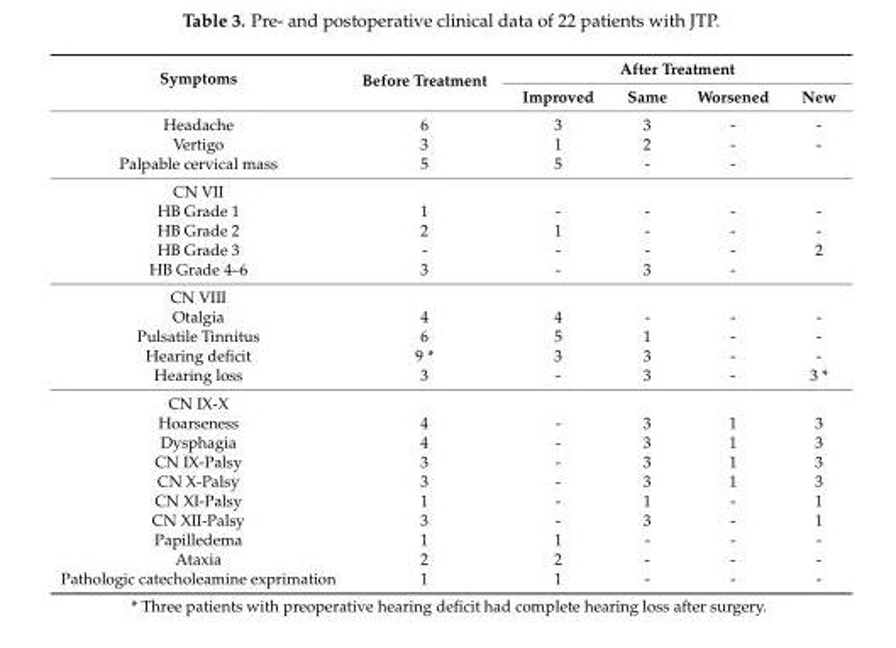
<table><thead><tr><td rowspan="2">Symptoms</td><td rowspan="2">Before Treatment</td><td colspan="4">After Treatment</td></tr><tr><td>Improved</td><td>Same</td><td>Worsened</td><td>New</td></tr></thead><tbody><tr><td>Headache</td><td>6</td><td>3</td><td>3</td><td>-</td><td>-</td></tr><tr><td>Vertigo</td><td>3</td><td>1</td><td>2</td><td>-</td><td>-</td></tr><tr><td>Palpable cervical mass</td><td>5</td><td>5</td><td>-</td><td>-</td><td></td></tr><tr><td colspan="6">CN VII</td></tr><tr><td>HB Grade 1</td><td>1</td><td>-</td><td>-</td><td>-</td><td>-</td></tr><tr><td>HB Grade 2</td><td>2</td><td>1</td><td>-</td><td>-</td><td>-</td></tr><tr><td>HB Grade 3</td><td>-</td><td>-</td><td>-</td><td>-</td><td>2</td></tr><tr><td>HB Grade 4–6</td><td>3</td><td>-</td><td>3</td><td>-</td><td></td></tr><tr><td colspan="6">CN VIII</td></tr><tr><td>Otalgia</td><td>4</td><td>4</td><td>-</td><td>-</td><td>-</td></tr><tr><td>Pulsatile Tinnitus</td><td>6</td><td>5</td><td>1</td><td>-</td><td>-</td></tr><tr><td>Hearing deficit</td><td>9 *</td><td>3</td><td>3</td><td>-</td><td>-</td></tr><tr><td>Hearing loss</td><td>3</td><td>-</td><td>3</td><td>-</td><td>3 *</td></tr><tr><td colspan="6">CN IX-X</td></tr><tr><td>Hoarseness</td><td>4</td><td>-</td><td>3</td><td>1</td><td>3</td></tr><tr><td>Dysphagia</td><td>4</td><td>-</td><td>3</td><td>1</td><td>3</td></tr><tr><td>CN IX-Palsy</td><td>3</td><td>-</td><td>3</td><td>1</td><td>3</td></tr><tr><td>CN X-Palsy</td><td>3</td><td>-</td><td>3</td><td>1</td><td>3</td></tr><tr><td>CN XI-Palsy</td><td>1</td><td>-</td><td>1</td><td>-</td><td>1</td></tr><tr><td>CN XII-Palsy</td><td>3</td><td>-</td><td>3</td><td>-</td><td>1</td></tr><tr><td>Papilledema</td><td>1</td><td>1</td><td>-</td><td>-</td><td>-</td></tr><tr><td>Ataxia</td><td>2</td><td>2</td><td>-</td><td>-</td><td>-</td></tr><tr><td>Pathologic catecholeamine exprimation</td><td>1</td><td>1</td><td>-</td><td>-</td><td>-</td></tr></tbody></table>